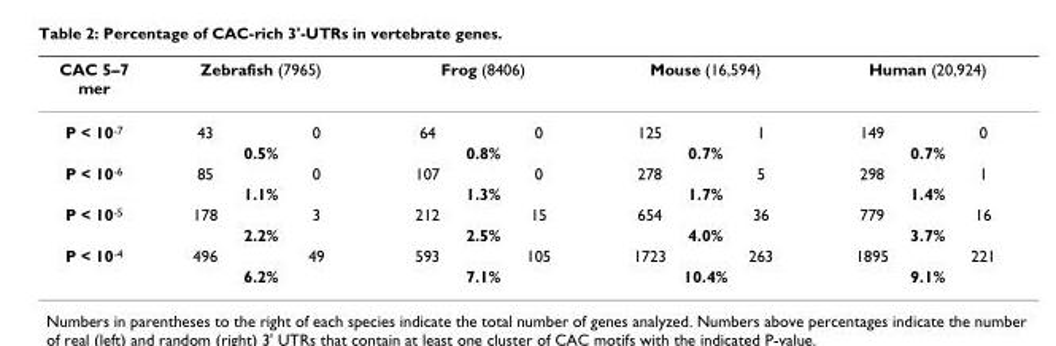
<table><thead><tr><td rowspan="2">CAC 5–7 mer P &lt; 10<sup>-7</sup></td><td colspan="2">Zebrafish (7965)</td><td colspan="2">Frog (8406)</td><td colspan="2">Mouse (16,594)</td><td colspan="2">Human (20,924)</td></tr><tr><td>43</td><td>0</td><td>64</td><td>0</td><td>125</td><td>1</td><td>149</td><td>0</td></tr></thead><tbody><tr><td></td><td colspan="2">0.5%</td><td colspan="2">0.8%</td><td colspan="2">0.7%</td><td colspan="2">0.7%</td></tr><tr><td rowspan="2">P &lt; 10<sup>-6</sup></td><td>85</td><td>0</td><td>107</td><td>0</td><td>278</td><td>5</td><td>298</td><td>1</td></tr><tr><td colspan="2">1.1%</td><td colspan="2">1.3%</td><td colspan="2">1.7%</td><td colspan="2">1.4%</td></tr><tr><td rowspan="2">P &lt; 10<sup>-5</sup></td><td>178</td><td>3</td><td>212</td><td>15</td><td>654</td><td>36</td><td>779</td><td>16</td></tr><tr><td colspan="2">2.2%</td><td colspan="2">2.5%</td><td colspan="2">4.0%</td><td colspan="2">3.7%</td></tr><tr><td rowspan="2">P &lt; 10<sup>-4</sup></td><td>496</td><td>49</td><td>593</td><td>105</td><td>1723</td><td>263</td><td>1895</td><td>221</td></tr><tr><td colspan="2">6.2%</td><td colspan="2">7.1%</td><td colspan="2">10.4%</td><td colspan="2">9.1%</td></tr></tbody></table>